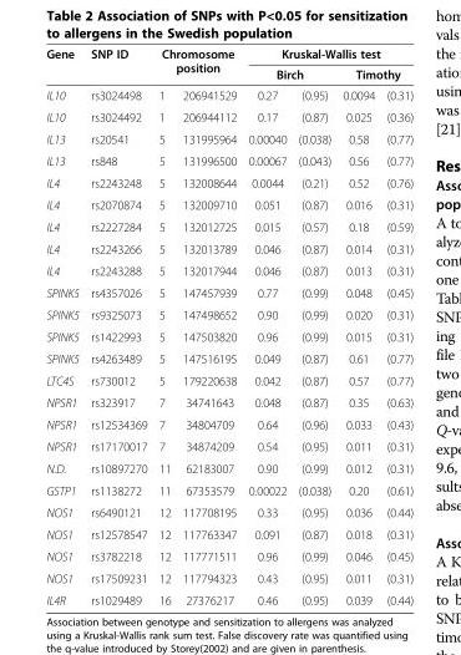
<table><thead><tr><td rowspan="3">Gene IL10</td><td rowspan="3">SNP ID rs3024498</td><td rowspan="2" colspan="2">Chromosome position</td><td colspan="4">Kruskal-Wallis test</td></tr><tr><td colspan="2">Birch</td><td colspan="2">Timothy</td></tr><tr><td>1</td><td>206941529</td><td>0.27</td><td>(0.95)</td><td>0.0094</td><td>(0.31)</td></tr></thead><tbody><tr><td>IL10</td><td>rs3024492</td><td>1</td><td>206944112</td><td>0.17</td><td>(0.87)</td><td>0.025</td><td>(0.36)</td></tr><tr><td>IL13</td><td>rs20541</td><td>5</td><td>131995964</td><td>0.00040</td><td>(0.038)</td><td>0.58</td><td>(0.77)</td></tr><tr><td>IL13</td><td>rs848</td><td>5</td><td>131996500</td><td>0.00067</td><td>(0.043)</td><td>0.56</td><td>(0.77)</td></tr><tr><td>IL4</td><td>rs2243248</td><td>5</td><td>132008644</td><td>0.0044</td><td>(0.21)</td><td>0.52</td><td>(0.76)</td></tr><tr><td>IL4</td><td>rs2070874</td><td>5</td><td>132009710</td><td>0.051</td><td>(0.87)</td><td>0.016</td><td>(0.31)</td></tr><tr><td>IL4</td><td>rs2227284</td><td>5</td><td>132012725</td><td>0.015</td><td>(0.57)</td><td>0.18</td><td>(0.59)</td></tr><tr><td>IL4</td><td>rs2243266</td><td>5</td><td>132013789</td><td>0.046</td><td>(0.87)</td><td>0.014</td><td>(0.31)</td></tr><tr><td>IL4</td><td>rs2243288</td><td>5</td><td>132017944</td><td>0.046</td><td>(0.87)</td><td>0.013</td><td>(0.31)</td></tr><tr><td>SPINK5</td><td>rs4357026</td><td>5</td><td>147457939</td><td>0.77</td><td>(0.99)</td><td>0.048</td><td>(0.45)</td></tr><tr><td>SPINK5</td><td>rs9325073</td><td>5</td><td>147498652</td><td>0.90</td><td>(0.99)</td><td>0.020</td><td>(0.31)</td></tr><tr><td>SPINK5</td><td>rs1422993</td><td>5</td><td>147503820</td><td>0.96</td><td>(0.99)</td><td>0.015</td><td>(0.31)</td></tr><tr><td>SPINK5</td><td>rs4263489</td><td>5</td><td>147516195</td><td>0.049</td><td>(0.87)</td><td>0.61</td><td>(0.77)</td></tr><tr><td>LTC4S</td><td>rs730012</td><td>5</td><td>179220638</td><td>0.042</td><td>(0.87)</td><td>0.57</td><td>(0.77)</td></tr><tr><td>NPSR1</td><td>rs323917</td><td>7</td><td>34741643</td><td>0.048</td><td>(0.87)</td><td>0.35</td><td>(0.63)</td></tr><tr><td>NPSR1</td><td>rs12534369</td><td>7</td><td>34804709</td><td>0.64</td><td>(0.96)</td><td>0.033</td><td>(0.43)</td></tr><tr><td>NPSR1</td><td>rs17170017</td><td>7</td><td>34874209</td><td>0.54</td><td>(0.95)</td><td>0.011</td><td>(0.31)</td></tr><tr><td>N.D.</td><td>rs10897270</td><td>11</td><td>62183007</td><td>0.90</td><td>(0.99)</td><td>0.012</td><td>(0.31)</td></tr><tr><td>GSTP1</td><td>rs1138272</td><td>11</td><td>67353579</td><td>0.00022</td><td>(0.038)</td><td>0.20</td><td>(0.61)</td></tr><tr><td>NOS1</td><td>rs6490121</td><td>12</td><td>117708195</td><td>0.33</td><td>(0.95)</td><td>0.036</td><td>(0.44)</td></tr><tr><td>NOS1</td><td>rs12578547</td><td>12</td><td>117763347</td><td>0.091</td><td>(0.87)</td><td>0.018</td><td>(0.31)</td></tr><tr><td>NOS1</td><td>rs3782218</td><td>12</td><td>117771511</td><td>0.96</td><td>(0.99)</td><td>0.046</td><td>(0.45)</td></tr><tr><td>NOS1</td><td>rs17509231</td><td>12</td><td>117794323</td><td>0.43</td><td>(0.95)</td><td>0.011</td><td>(0.31)</td></tr><tr><td>IL4R</td><td>rs1029489</td><td>16</td><td>27376217</td><td>0.46</td><td>(0.95)</td><td>0.039</td><td>(0.44)</td></tr></tbody></table>